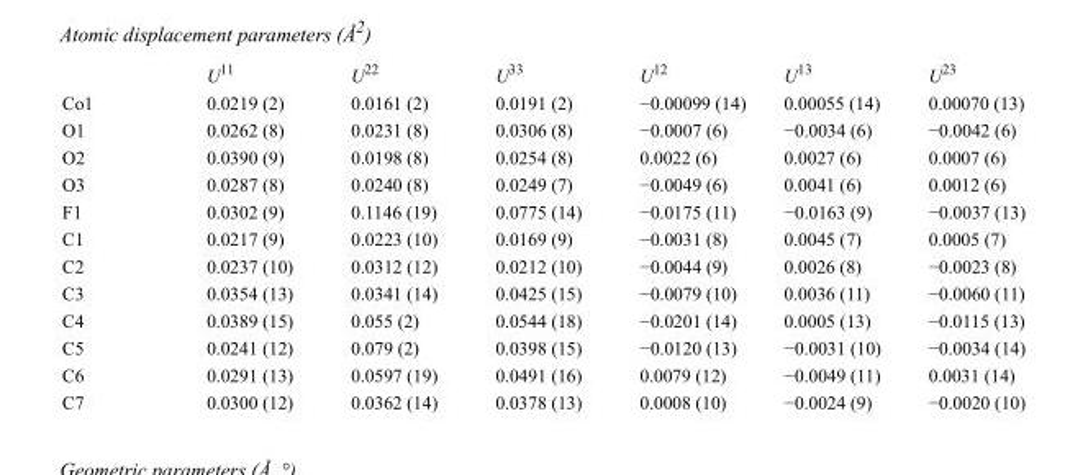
<table><thead><tr><td></td><td>U<sup>11</sup></td><td>U<sup>22</sup></td><td>U<sup>33</sup></td><td>U<sup>12</sup></td><td>U<sup>13</sup></td><td>U<sup>23</sup></td></tr></thead><tbody><tr><td>Co1</td><td>0.0219 (2)</td><td>0.0161 (2)</td><td>0.0191 (2)</td><td>−0.00099 (14)</td><td>0.00055 (14)</td><td>0.00070 (13)</td></tr><tr><td>O1</td><td>0.0262 (8)</td><td>0.0231 (8)</td><td>0.0306 (8)</td><td>−0.0007 (6)</td><td>−0.0034 (6)</td><td>−0.0042 (6)</td></tr><tr><td>O2</td><td>0.0390 (9)</td><td>0.0198 (8)</td><td>0.0254 (8)</td><td>0.0022 (6)</td><td>0.0027 (6)</td><td>0.0007 (6)</td></tr><tr><td>O3</td><td>0.0287 (8)</td><td>0.0240 (8)</td><td>0.0249 (7)</td><td>−0.0049 (6)</td><td>0.0041 (6)</td><td>0.0012 (6)</td></tr><tr><td>F1</td><td>0.0302 (9)</td><td>0.1146 (19)</td><td>0.0775 (14)</td><td>−0.0175 (11)</td><td>−0.0163 (9)</td><td>−0.0037 (13)</td></tr><tr><td>C1</td><td>0.0217 (9)</td><td>0.0223 (10)</td><td>0.0169 (9)</td><td>−0.0031 (8)</td><td>0.0045 (7)</td><td>0.0005 (7)</td></tr><tr><td>C2</td><td>0.0237 (10)</td><td>0.0312 (12)</td><td>0.0212 (10)</td><td>−0.0044 (9)</td><td>0.0026 (8)</td><td>−0.0023 (8)</td></tr><tr><td>C3</td><td>0.0354 (13)</td><td>0.0341 (14)</td><td>0.0425 (15)</td><td>−0.0079 (10)</td><td>0.0036 (11)</td><td>−0.0060 (11)</td></tr><tr><td>C4</td><td>0.0389 (15)</td><td>0.055 (2)</td><td>0.0544 (18)</td><td>−0.0201 (14)</td><td>0.0005 (13)</td><td>−0.0115 (13)</td></tr><tr><td>C5</td><td>0.0241 (12)</td><td>0.079 (2)</td><td>0.0398 (15)</td><td>−0.0120 (13)</td><td>−0.0031 (10)</td><td>−0.0034 (14)</td></tr><tr><td>C6</td><td>0.0291 (13)</td><td>0.0597 (19)</td><td>0.0491 (16)</td><td>0.0079 (12)</td><td>−0.0049 (11)</td><td>0.0031 (14)</td></tr><tr><td>C7</td><td>0.0300 (12)</td><td>0.0362 (14)</td><td>0.0378 (13)</td><td>0.0008 (10)</td><td>−0.0024 (9)</td><td>−0.0020 (10)</td></tr></tbody></table>